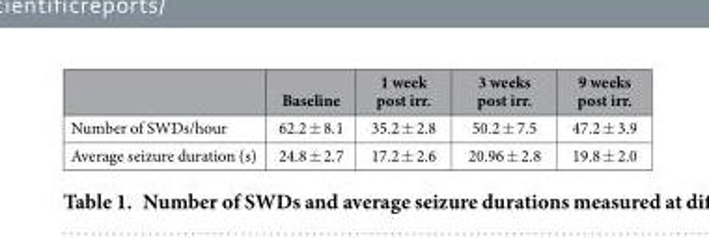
<table><thead><tr><td></td><td>Baseline</td><td>1 week post irr.</td><td>3 weeks post irr.</td><td>9 weeks post irr.</td></tr></thead><tbody><tr><td>Number of SWDs/hour</td><td>62.2 ± 8.1</td><td>35.2 ± 2.8</td><td>50.2 ± 7.5</td><td>47.2 ± 3.9</td></tr><tr><td>Average seizure duration (s)</td><td>24.8 ± 2.7</td><td>17.2 ± 2.6</td><td>20.96 ± 2.8</td><td>19.8 ± 2.0</td></tr></tbody></table>